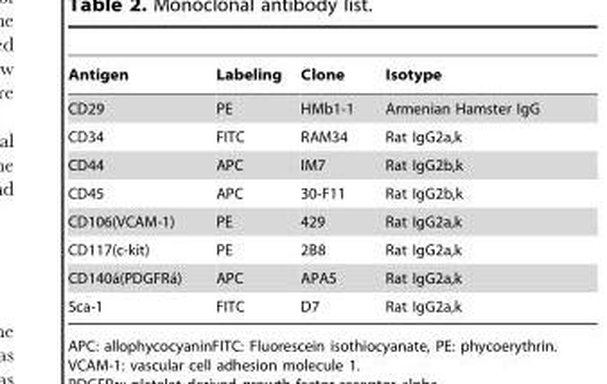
<table><thead><tr><td>Antigen</td><td>Labeling</td><td>Clone</td><td>Isotype</td></tr></thead><tbody><tr><td>CD29</td><td>PE</td><td>HMb1-1</td><td>Armenian Hamster IgG</td></tr><tr><td>CD34</td><td>FITC</td><td>RAM34</td><td>Rat IgG2a,k</td></tr><tr><td>CD44</td><td>APC</td><td>IM7</td><td>Rat IgG2b,k</td></tr><tr><td>CD45</td><td>APC</td><td>30-F11</td><td>Rat IgG2b,k</td></tr><tr><td>CD106(VCAM-1)</td><td>PE</td><td>429</td><td>Rat IgG2a,k</td></tr><tr><td>CD117(c-kit)</td><td>PE</td><td>2B8</td><td>Rat IgG2a,k</td></tr><tr><td>CD140a´(PDGFRa´)</td><td>APC</td><td>APA5</td><td>Rat IgG2a,k</td></tr><tr><td>Sca-1</td><td>FITC</td><td>D7</td><td>Rat IgG2a,k</td></tr></tbody></table>